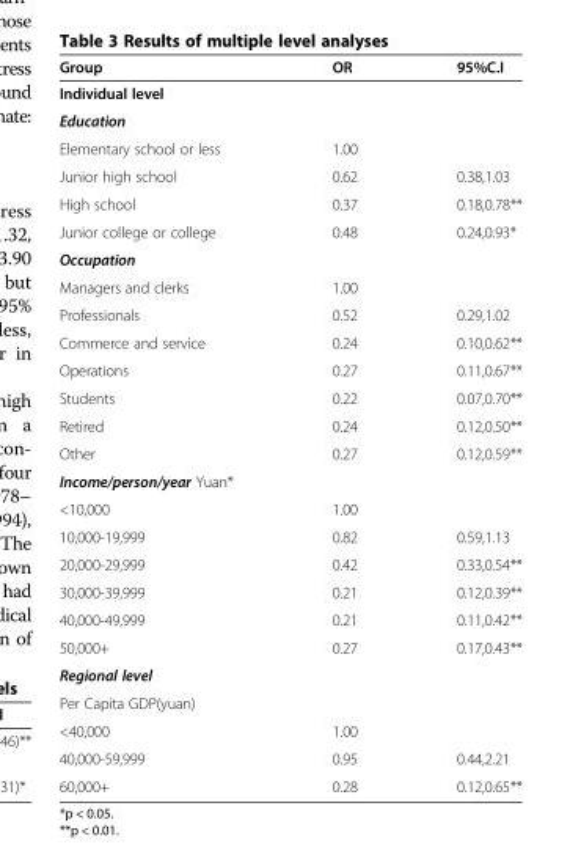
<table><thead><tr><td>Group</td><td>OR</td><td>95%C.I</td></tr></thead><tbody><tr><td colspan="3">Individual level</td></tr><tr><td colspan="3">Education</td></tr><tr><td>Elementary school or less</td><td>1.00</td><td></td></tr><tr><td>Junior high school</td><td>0.62</td><td>0.38,1.03</td></tr><tr><td>High school</td><td>0.37</td><td>0.18,0.78**</td></tr><tr><td>Junior college or college</td><td>0.48</td><td>0.24,0.93*</td></tr><tr><td colspan="3">Occupation</td></tr><tr><td>Managers and clerks</td><td>1.00</td><td></td></tr><tr><td>Professionals</td><td>0.52</td><td>0.29,1.02</td></tr><tr><td>Commerce and service</td><td>0.24</td><td>0.10,0.62**</td></tr><tr><td>Operations</td><td>0.27</td><td>0.11,0.67**</td></tr><tr><td>Students</td><td>0.22</td><td>0.07,0.70**</td></tr><tr><td>Retired</td><td>0.24</td><td>0.12,0.50**</td></tr><tr><td>Other</td><td>0.27</td><td>0.12,0.59**</td></tr><tr><td colspan="3">Income/person/year Yuan*</td></tr><tr><td>&lt;10,000</td><td>1.00</td><td></td></tr><tr><td>10,000-19,999</td><td>0.82</td><td>0.59,1.13</td></tr><tr><td>20,000-29,999</td><td>0.42</td><td>0.33,0.54**</td></tr><tr><td>30,000-39,999</td><td>0.21</td><td>0.12,0.39**</td></tr><tr><td>40,000-49,999</td><td>0.21</td><td>0.11,0.42**</td></tr><tr><td>50,000+</td><td>0.27</td><td>0.17,0.43**</td></tr><tr><td colspan="3">Regional level</td></tr><tr><td colspan="3">Per Capita GDP(yuan)</td></tr><tr><td>&lt;40,000</td><td>1.00</td><td></td></tr><tr><td>40,000-59,999</td><td>0.95</td><td>0.44,2.21</td></tr><tr><td>60,000+</td><td>0.28</td><td>0.12,0.65**</td></tr></tbody></table>